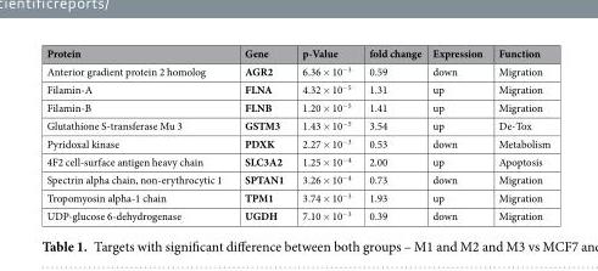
<table><thead><tr><td>Protein</td><td>Gene</td><td>p-Value</td><td>fold change</td><td>Expression</td><td>Function</td></tr></thead><tbody><tr><td>Anterior gradient protein 2 homolog</td><td>AGR2</td><td>6.36 × 10<sup>−3</sup></td><td>0.59</td><td>down</td><td>Migration</td></tr><tr><td>Filamin-A</td><td>FLNA</td><td>4.32 × 10<sup>−5</sup></td><td>1.31</td><td>up</td><td>Migration</td></tr><tr><td>Filamin-B</td><td>FLNB</td><td>1.20 × 10<sup>−5</sup></td><td>1.41</td><td>up</td><td>Migration</td></tr><tr><td>Glutathione S-transferase Mu 3</td><td>GSTM3</td><td>1.43 × 10<sup>−5</sup></td><td>3.54</td><td>up</td><td>De-Tox</td></tr><tr><td>Pyridoxal kinase</td><td>PDXK</td><td>2.27 × 10<sup>−3</sup></td><td>0.53</td><td>down</td><td>Metabolism</td></tr><tr><td>4F2 cell-surface antigen heavy chain</td><td>SLC3A2</td><td>1.25 × 10<sup>−4</sup></td><td>2.00</td><td>up</td><td>Apoptosis</td></tr><tr><td>Spectrin alpha chain, non-erythrocytic 1</td><td>SPTAN1</td><td>3.26 × 10<sup>−4</sup></td><td>0.73</td><td>down</td><td>Migration</td></tr><tr><td>Tropomyosin alpha-1 chain</td><td>TPM1</td><td>3.74 × 10<sup>−3</sup></td><td>1.93</td><td>up</td><td>Migration</td></tr><tr><td>UDP-glucose 6-dehydrogenase</td><td>UGDH</td><td>7.10 × 10<sup>−3</sup></td><td>0.39</td><td>down</td><td>Migration</td></tr></tbody></table>